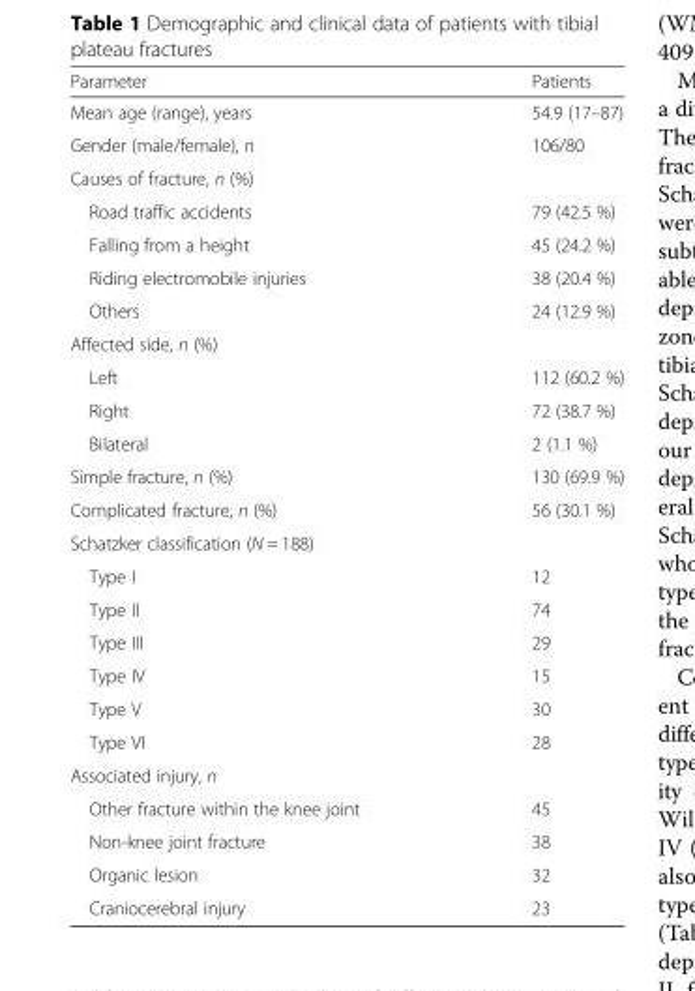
<table><thead><tr><td>Parameter</td><td>Patients</td></tr></thead><tbody><tr><td>Mean age (range), years</td><td>54.9 (17–87)</td></tr><tr><td>Gender (male/female), n</td><td>106/80</td></tr><tr><td colspan="2">Causes of fracture, n (%)</td></tr><tr><td>Road traffic accidents</td><td>79 (42.5 %)</td></tr><tr><td>Falling from a height</td><td>45 (24.2 %)</td></tr><tr><td>Riding electromobile injuries</td><td>38 (20.4 %)</td></tr><tr><td>Others</td><td>24 (12.9 %)</td></tr><tr><td colspan="2">Affected side, n (%)</td></tr><tr><td>Left</td><td>112 (60.2 %)</td></tr><tr><td>Right</td><td>72 (38.7 %)</td></tr><tr><td>Bilateral</td><td>2 (1.1 %)</td></tr><tr><td>Simple fracture, n (%)</td><td>130 (69.9 %)</td></tr><tr><td>Complicated fracture, n (%)</td><td>56 (30.1 %)</td></tr><tr><td colspan="2">Schatzker classification (N = 188)</td></tr><tr><td>Type I</td><td>12</td></tr><tr><td>Type II</td><td>74</td></tr><tr><td>Type III</td><td>29</td></tr><tr><td>Type IV</td><td>15</td></tr><tr><td>Type V</td><td>30</td></tr><tr><td>Type VI</td><td>28</td></tr><tr><td colspan="2">Associated injury, n</td></tr><tr><td>Other fracture within the knee joint</td><td>45</td></tr><tr><td>Non-knee joint fracture</td><td>38</td></tr><tr><td>Organic lesion</td><td>32</td></tr><tr><td>Craniocerebral injury</td><td>23</td></tr></tbody></table>